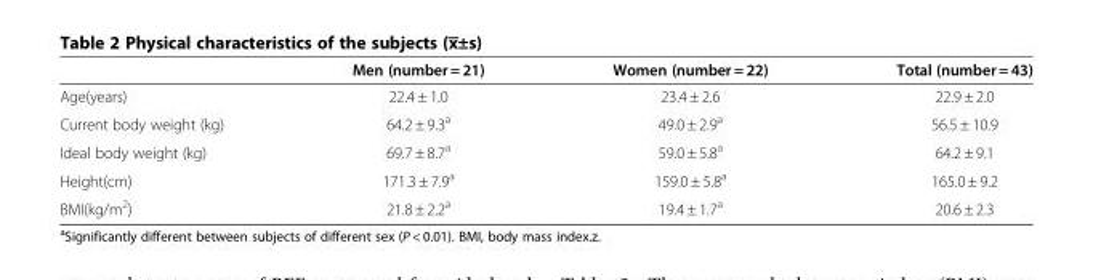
<table><thead><tr><td></td><td>Men (number = 21)</td><td>Women (number = 22)</td><td>Total (number = 43)</td></tr></thead><tbody><tr><td>Age(years)</td><td>22.4 ± 1.0</td><td>23.4 ± 2.6</td><td>22.9 ± 2.0</td></tr><tr><td>Current body weight (kg)</td><td>64.2 ± 9.3<sup>a</sup></td><td>49.0 ± 2.9<sup>a</sup></td><td>56.5 ± 10.9</td></tr><tr><td>Ideal body weight (kg)</td><td>69.7 ± 8.7<sup>a</sup></td><td>59.0 ± 5.8<sup>a</sup></td><td>64.2 ± 9.1</td></tr><tr><td>Height(cm)</td><td>171.3 ± 7.9<sup>a</sup></td><td>159.0 ± 5.8<sup>a</sup></td><td>165.0 ± 9.2</td></tr><tr><td>BMI(kg/m<sup>2</sup>)</td><td>21.8 ± 2.2<sup>a</sup></td><td>19.4 ± 1.7<sup>a</sup></td><td>20.6 ± 2.3</td></tr></tbody></table>